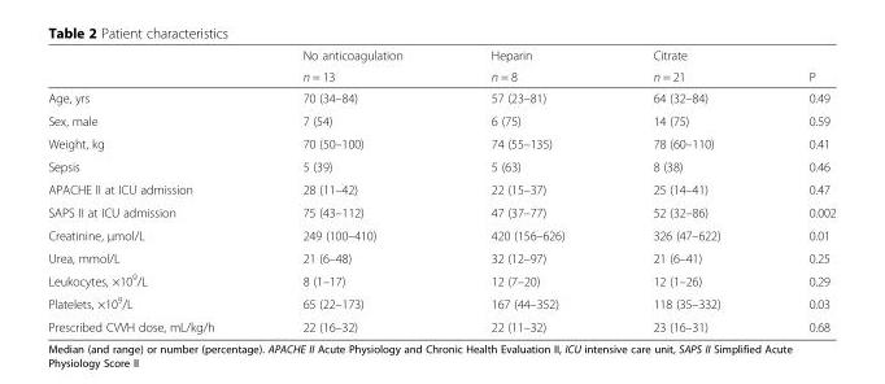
<table><thead><tr><td rowspan="2"></td><td rowspan="2">No anticoagulation n = 13</td><td rowspan="2">Heparin n = 8</td><td rowspan="2">Citrate n = 21</td><td rowspan="2">P</td></tr><tr></tr></thead><tbody><tr><td>Age, yrs</td><td>70 (34–84)</td><td>57 (23–81)</td><td>64 (32–84)</td><td>0.49</td></tr><tr><td>Sex, male</td><td>7 (54)</td><td>6 (75)</td><td>14 (75)</td><td>0.59</td></tr><tr><td>Weight, kg</td><td>70 (50–100)</td><td>74 (55–135)</td><td>78 (60–110)</td><td>0.41</td></tr><tr><td>Sepsis</td><td>5 (39)</td><td>5 (63)</td><td>8 (38)</td><td>0.46</td></tr><tr><td>APACHE II at ICU admission</td><td>28 (11–42)</td><td>22 (15–37)</td><td>25 (14–41)</td><td>0.47</td></tr><tr><td>SAPS II at ICU admission</td><td>75 (43–112)</td><td>47 (37–77)</td><td>52 (32–86)</td><td>0.002</td></tr><tr><td>Creatinine, μmol/L</td><td>249 (100–410)</td><td>420 (156–626)</td><td>326 (47–622)</td><td>0.01</td></tr><tr><td>Urea, mmol/L</td><td>21 (6–48)</td><td>32 (12–97)</td><td>21 (6–41)</td><td>0.25</td></tr><tr><td>Leukocytes, ×10<sup>9</sup>/L</td><td>8 (1–17)</td><td>12 (7–20)</td><td>12 (1–26)</td><td>0.29</td></tr><tr><td>Platelets, ×10<sup>9</sup>/L</td><td>65 (22–173)</td><td>167 (44–352)</td><td>118 (35–332)</td><td>0.03</td></tr><tr><td>Prescribed CVVH dose, mL/kg/h</td><td>22 (16–32)</td><td>22 (11–32)</td><td>23 (16–31)</td><td>0.68</td></tr></tbody></table>